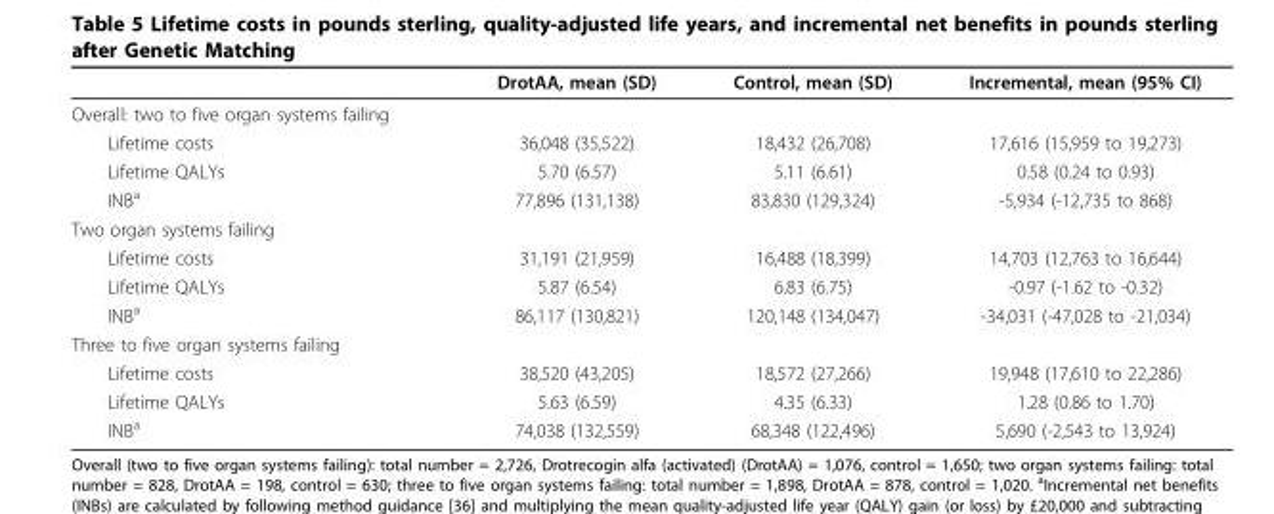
<table><thead><tr><td></td><td>DrotAA, mean (SD)</td><td>Control, mean (SD)</td><td>Incremental, mean (95% CI)</td></tr></thead><tbody><tr><td colspan="4">Overall: two to five organ systems failing</td></tr><tr><td>Lifetime costs</td><td>36,048 (35,522)</td><td>18,432 (26,708)</td><td>17,616 (15,959 to 19,273)</td></tr><tr><td>Lifetime QALYs</td><td>5.70 (6.57)</td><td>5.11 (6.61)</td><td>0.58 (0.24 to 0.93)</td></tr><tr><td>INB<sup>a</sup></td><td>77,896 (131,138)</td><td>83,830 (129,324)</td><td>-5,934 (-12,735 to 868)</td></tr><tr><td colspan="4">Two organ systems failing</td></tr><tr><td>Lifetime costs</td><td>31,191 (21,959)</td><td>16,488 (18,399)</td><td>14,703 (12,763 to 16,644)</td></tr><tr><td>Lifetime QALYs</td><td>5.87 (6.54)</td><td>6.83 (6.75)</td><td>-0.97 (-1.62 to -0.32)</td></tr><tr><td>INB<sup>a</sup></td><td>86,117 (130,821)</td><td>120,148 (134,047)</td><td>-34,031 (-47,028 to -21,034)</td></tr><tr><td colspan="4">Three to five organ systems failing</td></tr><tr><td>Lifetime costs</td><td>38,520 (43,205)</td><td>18,572 (27,266)</td><td>19,948 (17,610 to 22,286)</td></tr><tr><td>Lifetime QALYs</td><td>5.63 (6.59)</td><td>4.35 (6.33)</td><td>1.28 (0.86 to 1.70)</td></tr><tr><td>INB<sup>a</sup></td><td>74,038 (132,559)</td><td>68,348 (122,496)</td><td>5,690 (-2,543 to 13,924)</td></tr></tbody></table>